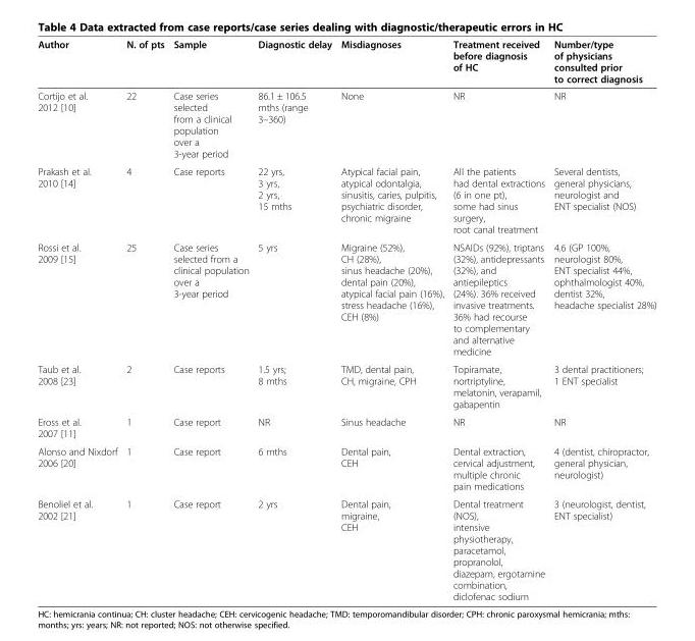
<table><thead><tr><td>Author</td><td>N. of pts</td><td>Sample</td><td>Diagnostic delay</td><td>Misdiagnoses</td><td>Treatment received before diagnosis of HC</td><td>Number/type of physicians consulted prior to correct diagnosis</td></tr></thead><tbody><tr><td>Cortijo et al. 2012 [10]</td><td>22</td><td>Case series selected from a clinical population over a 3-year period</td><td>86.1 ± 106.5 mths (range 3–360)</td><td>None</td><td>NR</td><td>NR</td></tr><tr><td>Prakash et al. 2010 [14]</td><td>4</td><td>Case reports</td><td>22 yrs, 3 yrs, 2 yrs, 15 mths</td><td>Atypical facial pain, atypical odontalgia, sinusitis, caries, pulpitis, psychiatric disorder, chronic migraine</td><td>All the patients had dental extractions (6 in one pt), some had sinus surgery, root canal treatment</td><td>Several dentists, general physicians, neurologist and ENT specialist (NOS)</td></tr><tr><td>Rossi et al. 2009 [15]</td><td>25</td><td>Case series selected from a clinical population over a 3-year period</td><td>5 yrs</td><td>Migraine (52%), CH (28%), sinus headache (20%), dental pain (20%), atypical facial pain (16%), stress headache (16%), CEH (8%)</td><td>NSAIDs (92%), triptans (32%), antidepressants (32%), and antiepileptics (24%). 36% received invasive treatments. 36% had recourse to complementary and alternative medicine</td><td>4.6 (GP 100%, neurologist 80%, ENT specialist 44%, ophthalmologist 40%, dentist 32%, headache specialist 28%)</td></tr><tr><td>Taub et al. 2008 [23]</td><td>2</td><td>Case reports</td><td>1.5 yrs; 8 mths</td><td>TMD, dental pain, CH, migraine, CPH</td><td>Topiramate, nortriptyline, melatonin, verapamil, gabapentin</td><td>3 dental practitioners; 1 ENT specialist</td></tr><tr><td>Eross et al. 2007 [11]</td><td>1</td><td>Case report</td><td>NR</td><td>Sinus headache</td><td>NR</td><td>NR</td></tr><tr><td>Alonso and Nixdorf 2006 [20]</td><td>1</td><td>Case report</td><td>6 mths</td><td>Dental pain, CEH</td><td>Dental extraction, cervical adjustment, multiple chronic pain medications</td><td>4 (dentist, chiropractor, general physician, neurologist)</td></tr><tr><td>Benoliel et al. 2002 [21]</td><td>1</td><td>Case report</td><td>2 yrs</td><td>Dental pain, migraine, CEH</td><td>Dental treatment (NOS), intensive physiotherapy, paracetamol, propranolol, diazepam, ergotamine combination, diclofenac sodium</td><td>3 (neurologist, dentist, ENT specialist)</td></tr></tbody></table>